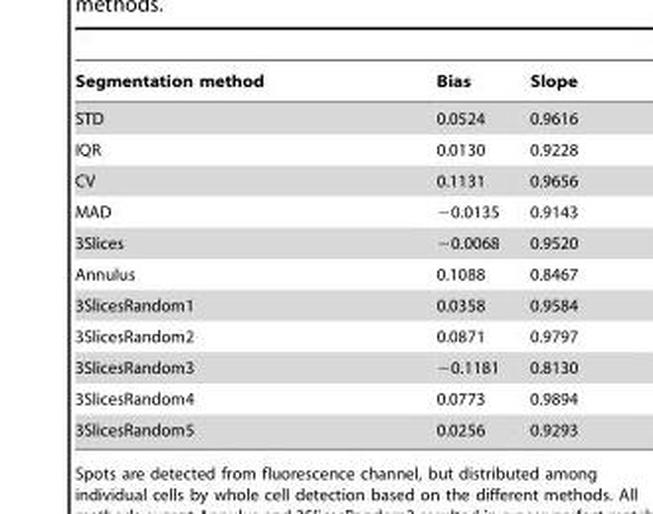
<table><thead><tr><td>Segmentation method</td><td>Bias</td><td>Slope</td></tr></thead><tbody><tr><td>STD</td><td>0.0524</td><td>0.9616</td></tr><tr><td>IQR</td><td>0.0130</td><td>0.9228</td></tr><tr><td>CV</td><td>0.1131</td><td>0.9656</td></tr><tr><td>MAD</td><td>−0.0135</td><td>0.9143</td></tr><tr><td>3Slices</td><td>−0.0068</td><td>0.9520</td></tr><tr><td>Annulus</td><td>0.1088</td><td>0.8467</td></tr><tr><td>3SlicesRandom1</td><td>0.0358</td><td>0.9584</td></tr><tr><td>3SlicesRandom2</td><td>0.0871</td><td>0.9797</td></tr><tr><td>3SlicesRandom3</td><td>−0.1181</td><td>0.8130</td></tr><tr><td>3SlicesRandom4</td><td>0.0773</td><td>0.9894</td></tr><tr><td>3SlicesRandom5</td><td>0.0256</td><td>0.9293</td></tr></tbody></table>